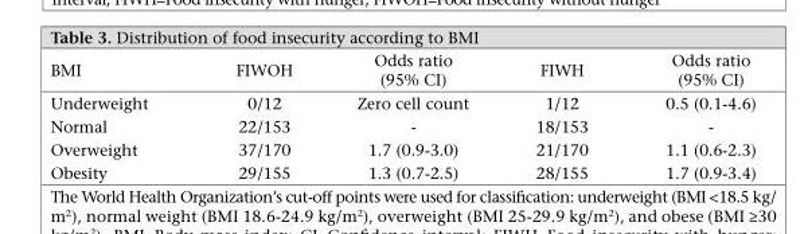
<table><thead><tr><td>BMI</td><td>FIWOH</td><td>Odds ratio (95% CI)</td><td>FIWH</td><td>Odds ratio (95% CI)</td></tr></thead><tbody><tr><td>Underweight</td><td>0/12</td><td>Zero cell count</td><td>1/12</td><td>0.5 (0.1-4.6)</td></tr><tr><td>Normal</td><td>22/153</td><td>-</td><td>18/153</td><td>-</td></tr><tr><td>Overweight</td><td>37/170</td><td>1.7 (0.9-3.0)</td><td>21/170</td><td>1.1 (0.6-2.3)</td></tr><tr><td>Obesity</td><td>29/155</td><td>1.3 (0.7-2.5)</td><td>28/155</td><td>1.7 (0.9-3.4)</td></tr></tbody></table>